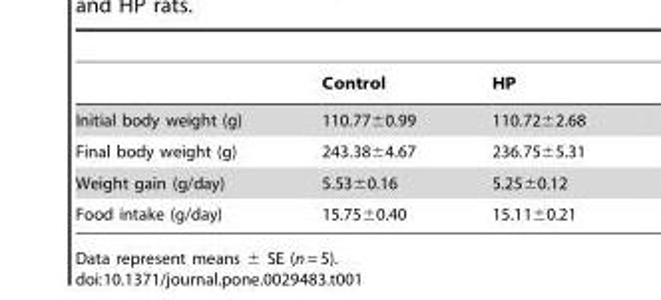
<table><thead><tr><td></td><td>Control</td><td>HP</td></tr></thead><tbody><tr><td>Initial body weight (g)</td><td>110.77±0.99</td><td>110.72±2.68</td></tr><tr><td>Final body weight (g)</td><td>243.38±4.67</td><td>236.75±5.31</td></tr><tr><td>Weight gain (g/day)</td><td>5.53±0.16</td><td>5.25±0.12</td></tr><tr><td>Food intake (g/day)</td><td>15.75±0.40</td><td>15.11±0.21</td></tr></tbody></table>